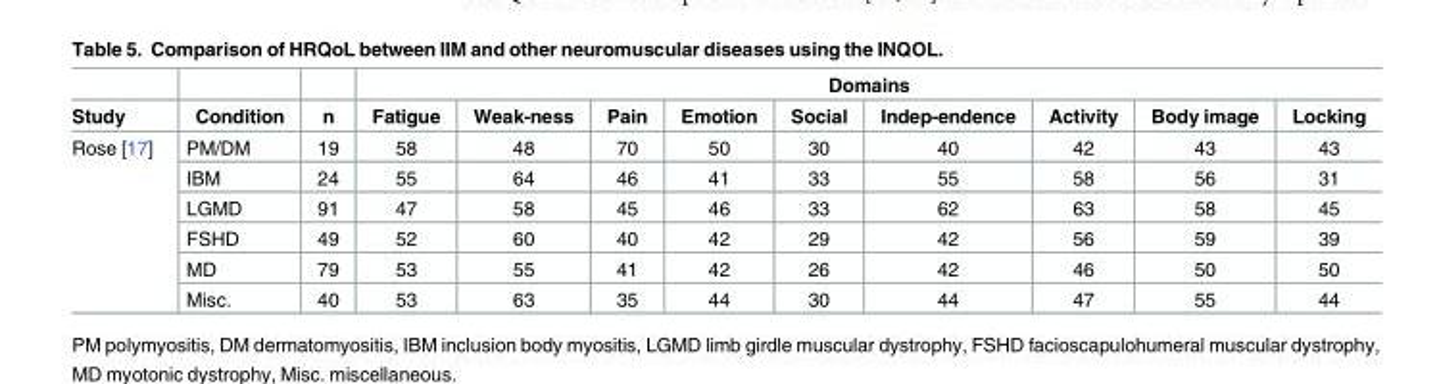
<table><thead><tr><td rowspan="2">Study</td><td rowspan="2">Condition</td><td rowspan="2">n</td><td colspan="9">Domains</td></tr><tr><td>Fatigue</td><td>Weak-ness</td><td>Pain</td><td>Emotion</td><td>Social</td><td>Indep-endence</td><td>Activity</td><td>Body image</td><td>Locking</td></tr></thead><tbody><tr><td rowspan="6">Rose [17]</td><td>PM/DM</td><td>19</td><td>58</td><td>48</td><td>70</td><td>50</td><td>30</td><td>40</td><td>42</td><td>43</td><td>43</td></tr><tr><td>IBM</td><td>24</td><td>55</td><td>64</td><td>46</td><td>41</td><td>33</td><td>55</td><td>58</td><td>56</td><td>31</td></tr><tr><td>LGMD</td><td>91</td><td>47</td><td>58</td><td>45</td><td>46</td><td>33</td><td>62</td><td>63</td><td>58</td><td>45</td></tr><tr><td>FSHD</td><td>49</td><td>52</td><td>60</td><td>40</td><td>42</td><td>29</td><td>42</td><td>56</td><td>59</td><td>39</td></tr><tr><td>MD</td><td>79</td><td>53</td><td>55</td><td>41</td><td>42</td><td>26</td><td>42</td><td>46</td><td>50</td><td>50</td></tr><tr><td>Misc.</td><td>40</td><td>53</td><td>63</td><td>35</td><td>44</td><td>30</td><td>44</td><td>47</td><td>55</td><td>44</td></tr></tbody></table>